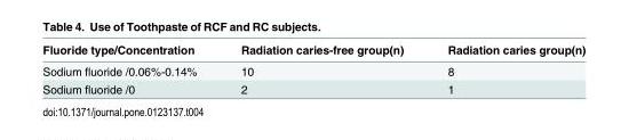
<table><thead><tr><td>Fluoride type/Concentration</td><td>Radiation caries-free group(n)</td><td>Radiation caries group(n)</td></tr></thead><tbody><tr><td>Sodium fluoride /0.06%-0.14%</td><td>10</td><td>8</td></tr><tr><td>Sodium fluoride /0</td><td>2</td><td>1</td></tr></tbody></table>